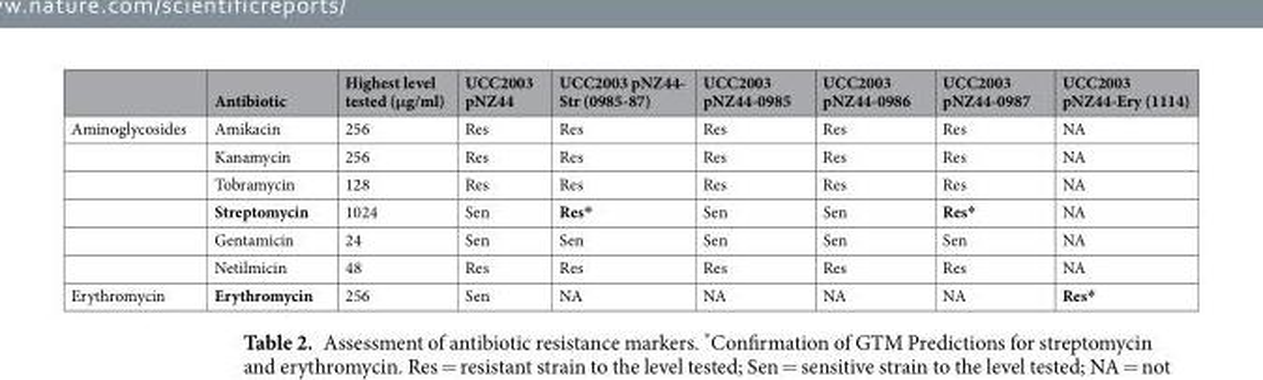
<table><thead><tr><td></td><td>Antibiotic</td><td>Highest level tested (μg/ml)</td><td>UCC2003 pNZ44</td><td>UCC2003 pNZ44- Str (0985-87)</td><td>UCC2003 pNZ44-0985</td><td>UCC2003 pNZ44-0986</td><td>UCC2003 pNZ44-0987</td><td>UCC2003 pNZ44-Ery (1114)</td></tr></thead><tbody><tr><td rowspan="6">Aminoglycosides</td><td>Amikacin</td><td>256</td><td>Res</td><td>Res</td><td>Res</td><td>Res</td><td>Res</td><td>NA</td></tr><tr><td>Kanamycin</td><td>256</td><td>Res</td><td>Res</td><td>Res</td><td>Res</td><td>Res</td><td>NA</td></tr><tr><td>Tobramycin</td><td>128</td><td>Res</td><td>Res</td><td>Res</td><td>Res</td><td>Res</td><td>NA</td></tr><tr><td>Streptomycin</td><td>1024</td><td>Sen</td><td>Res*</td><td>Sen</td><td>Sen</td><td>Res*</td><td>NA</td></tr><tr><td>Gentamicin</td><td>24</td><td>Sen</td><td>Sen</td><td>Sen</td><td>Sen</td><td>Sen</td><td>NA</td></tr><tr><td>Netilmicin</td><td>48</td><td>Res</td><td>Res</td><td>Res</td><td>Res</td><td>Res</td><td>NA</td></tr><tr><td>Erythromycin</td><td>Erythromycin</td><td>256</td><td>Sen</td><td>NA</td><td>NA</td><td>NA</td><td>NA</td><td>Res*</td></tr></tbody></table>